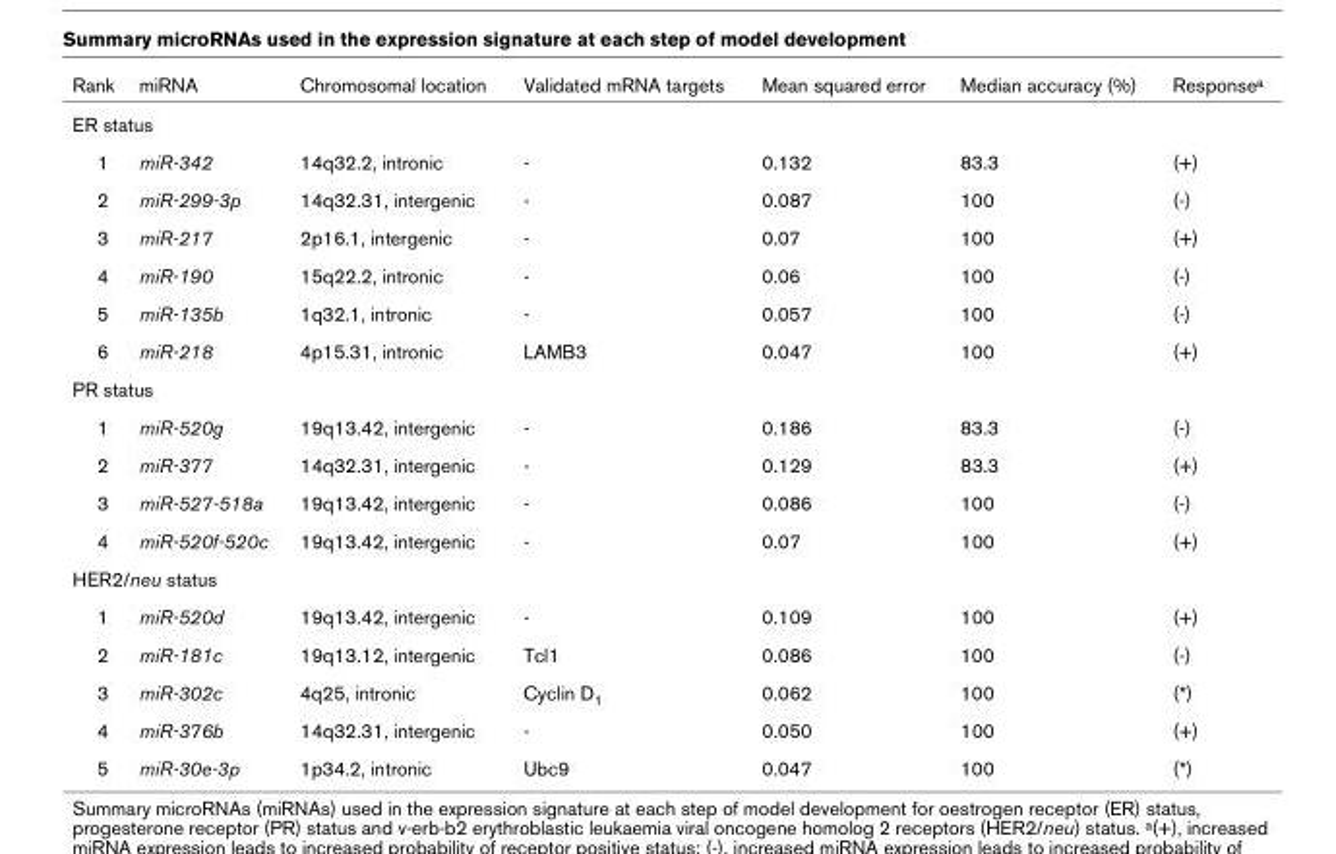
<table><thead><tr><td>Rank</td><td>miRNA</td><td>Chromosomal location</td><td>Validated mRNA targets</td><td>Mean squared error</td><td>Median accuracy (%)</td><td>Response<sup>a</sup></td></tr></thead><tbody><tr><td colspan="7">ER status</td></tr><tr><td>1</td><td>miR-342</td><td>14q32.2, intronic</td><td>-</td><td>0.132</td><td>83.3</td><td>(+)</td></tr><tr><td>2</td><td>miR-299-3p</td><td>14q32.31, intergenic</td><td>-</td><td>0.087</td><td>100</td><td>(-)</td></tr><tr><td>3</td><td>miR-217</td><td>2p16.1, intergenic</td><td>-</td><td>0.07</td><td>100</td><td>(+)</td></tr><tr><td>4</td><td>miR-190</td><td>15q22.2, intronic</td><td>-</td><td>0.06</td><td>100</td><td>(-)</td></tr><tr><td>5</td><td>miR-135b</td><td>1q32.1, intronic</td><td>-</td><td>0.057</td><td>100</td><td>(-)</td></tr><tr><td>6</td><td>miR-218</td><td>4p15.31, intronic</td><td>LAMB3</td><td>0.047</td><td>100</td><td>(+)</td></tr><tr><td colspan="7">PR status</td></tr><tr><td>1</td><td>miR-520g</td><td>19q13.42, intergenic</td><td>-</td><td>0.186</td><td>83.3</td><td>(-)</td></tr><tr><td>2</td><td>miR-377</td><td>14q32.31, intergenic</td><td>-</td><td>0.129</td><td>83.3</td><td>(+)</td></tr><tr><td>3</td><td>miR-527-518a</td><td>19q13.42, intergenic</td><td>-</td><td>0.086</td><td>100</td><td>(-)</td></tr><tr><td>4</td><td>miR-520f-520c</td><td>19q13.42, intergenic</td><td>-</td><td>0.07</td><td>100</td><td>(+)</td></tr><tr><td colspan="7">HER2/neu status</td></tr><tr><td>1</td><td>miR-520d</td><td>19q13.42, intergenic</td><td>-</td><td>0.109</td><td>100</td><td>(+)</td></tr><tr><td>2</td><td>miR-181c</td><td>19q13.12, intergenic</td><td>Tcl1</td><td>0.086</td><td>100</td><td>(-)</td></tr><tr><td>3</td><td>miR-302c</td><td>4q25, intronic</td><td>Cyclin D<sub>1</sub></td><td>0.062</td><td>100</td><td>(*)</td></tr><tr><td>4</td><td>miR-376b</td><td>14q32.31, intergenic</td><td>-</td><td>0.050</td><td>100</td><td>(+)</td></tr><tr><td>5</td><td>miR-30e-3p</td><td>1p34.2, intronic</td><td>Ubc9</td><td>0.047</td><td>100</td><td>(*)</td></tr></tbody></table>